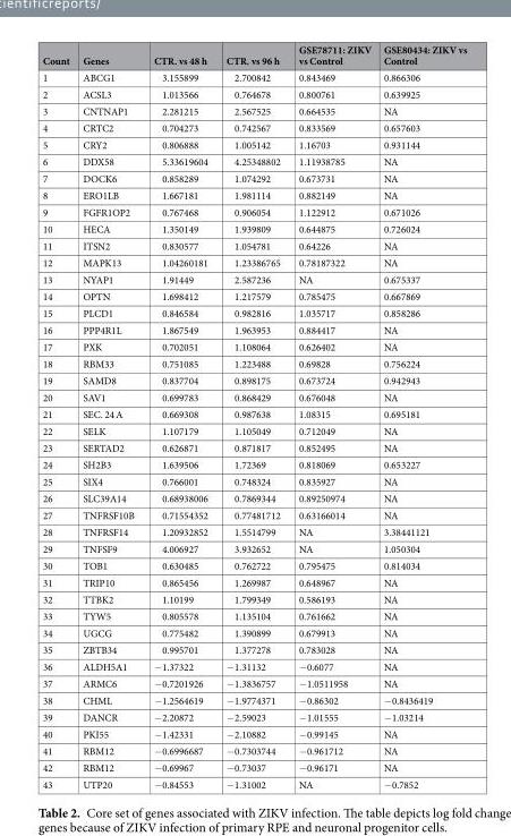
<table><thead><tr><td>Count</td><td>Genes</td><td>CTR. vs 48 h</td><td>CTR. vs 96 h</td><td>GSE78711: ZIKV vs Control</td><td>GSE80434: ZIKV vs Control</td></tr></thead><tbody><tr><td>1</td><td>ABCG1</td><td>3.155899</td><td>2.700842</td><td>0.843469</td><td>0.866306</td></tr><tr><td>2</td><td>ACSL3</td><td>1.013566</td><td>0.764678</td><td>0.800761</td><td>0.639925</td></tr><tr><td>3</td><td>CNTNAP1</td><td>2.281215</td><td>2.567525</td><td>0.664535</td><td>NA</td></tr><tr><td>4</td><td>CRTC2</td><td>0.704273</td><td>0.742567</td><td>0.833569</td><td>0.657603</td></tr><tr><td>5</td><td>CRY2</td><td>0.806888</td><td>1.005142</td><td>1.16703</td><td>0.931144</td></tr><tr><td>6</td><td>DDX58</td><td>5.33619604</td><td>4.25348802</td><td>1.11938785</td><td>NA</td></tr><tr><td>7</td><td>DOCK6</td><td>0.858289</td><td>1.074292</td><td>0.673731</td><td>NA</td></tr><tr><td>8</td><td>ERO1LB</td><td>1.667181</td><td>1.981114</td><td>0.882149</td><td>NA</td></tr><tr><td>9</td><td>FGFR1OP2</td><td>0.767468</td><td>0.906054</td><td>1.122912</td><td>0.671026</td></tr><tr><td>10</td><td>HECA</td><td>1.350149</td><td>1.939809</td><td>0.644875</td><td>0.726024</td></tr><tr><td>11</td><td>ITSN2</td><td>0.830577</td><td>1.054781</td><td>0.64226</td><td>NA</td></tr><tr><td>12</td><td>MAPK13</td><td>1.04260181</td><td>1.23386765</td><td>0.78187322</td><td>NA</td></tr><tr><td>13</td><td>NYAP1</td><td>1.91449</td><td>2.587236</td><td>NA</td><td>0.675337</td></tr><tr><td>14</td><td>OPTN</td><td>1.698412</td><td>1.217579</td><td>0.785475</td><td>0.667869</td></tr><tr><td>15</td><td>PLCD1</td><td>0.846584</td><td>0.982816</td><td>1.035717</td><td>0.858286</td></tr><tr><td>16</td><td>PPP4R1L</td><td>1.867549</td><td>1.963953</td><td>0.884417</td><td>NA</td></tr><tr><td>17</td><td>PXK</td><td>0.702051</td><td>1.108064</td><td>0.626402</td><td>NA</td></tr><tr><td>18</td><td>RBM33</td><td>0.751085</td><td>1.223488</td><td>0.69828</td><td>0.756224</td></tr><tr><td>19</td><td>SAMD8</td><td>0.837704</td><td>0.898175</td><td>0.673724</td><td>0.942943</td></tr><tr><td>20</td><td>SAV1</td><td>0.699783</td><td>0.868429</td><td>0.676048</td><td>NA</td></tr><tr><td>21</td><td>SEC. 24 A</td><td>0.669308</td><td>0.987638</td><td>1.08315</td><td>0.695181</td></tr><tr><td>22</td><td>SELK</td><td>1.107179</td><td>1.105049</td><td>0.712049</td><td>NA</td></tr><tr><td>23</td><td>SERTAD2</td><td>0.626871</td><td>0.871817</td><td>0.852495</td><td>NA</td></tr><tr><td>24</td><td>SH2B3</td><td>1.639506</td><td>1.72369</td><td>0.818069</td><td>0.653227</td></tr><tr><td>25</td><td>SIX4</td><td>0.766001</td><td>0.748324</td><td>0.835927</td><td>NA</td></tr><tr><td>26</td><td>SLC39A14</td><td>0.68938006</td><td>0.7869344</td><td>0.89250974</td><td>NA</td></tr><tr><td>27</td><td>TNFRSF10B</td><td>0.71554352</td><td>0.77481712</td><td>0.63166014</td><td>NA</td></tr><tr><td>28</td><td>TNFRSF14</td><td>1.20932852</td><td>1.5514799</td><td>NA</td><td>3.38441121</td></tr><tr><td>29</td><td>TNFSF9</td><td>4.006927</td><td>3.932652</td><td>NA</td><td>1.050304</td></tr><tr><td>30</td><td>TOB1</td><td>0.630485</td><td>0.762722</td><td>0.795475</td><td>0.814034</td></tr><tr><td>31</td><td>TRIP10</td><td>0.865456</td><td>1.269987</td><td>0.648967</td><td>NA</td></tr><tr><td>32</td><td>TTBK2</td><td>1.10199</td><td>1.799349</td><td>0.586193</td><td>NA</td></tr><tr><td>33</td><td>TYW5</td><td>0.805578</td><td>1.135104</td><td>0.761662</td><td>NA</td></tr><tr><td>34</td><td>UGCG</td><td>0.775482</td><td>1.390899</td><td>0.679913</td><td>NA</td></tr><tr><td>35</td><td>ZBTB34</td><td>0.995701</td><td>1.377278</td><td>0.783028</td><td>NA</td></tr><tr><td>36</td><td>ALDH5A1</td><td>−1.37322</td><td>−1.31132</td><td>−0.6077</td><td>NA</td></tr><tr><td>37</td><td>ARMC6</td><td>−0.7201926</td><td>−1.3836757</td><td>−1.0511958</td><td>NA</td></tr><tr><td>38</td><td>CHML</td><td>−1.2564619</td><td>−1.9774371</td><td>−0.86302</td><td>−0.8436419</td></tr><tr><td>39</td><td>DANCR</td><td>−2.20872</td><td>−2.59023</td><td>−1.01555</td><td>−1.03214</td></tr><tr><td>40</td><td>PKI55</td><td>−1.42331</td><td>−2.10882</td><td>−0.99145</td><td>NA</td></tr><tr><td>41</td><td>RBM12</td><td>−0.6996687</td><td>−0.7303744</td><td>−0.961712</td><td>NA</td></tr><tr><td>42</td><td>RBM12</td><td>−0.69967</td><td>−0.73037</td><td>−0.96171</td><td>NA</td></tr><tr><td>43</td><td>UTP20</td><td>−0.84553</td><td>−1.31002</td><td>NA</td><td>−0.7852</td></tr></tbody></table>